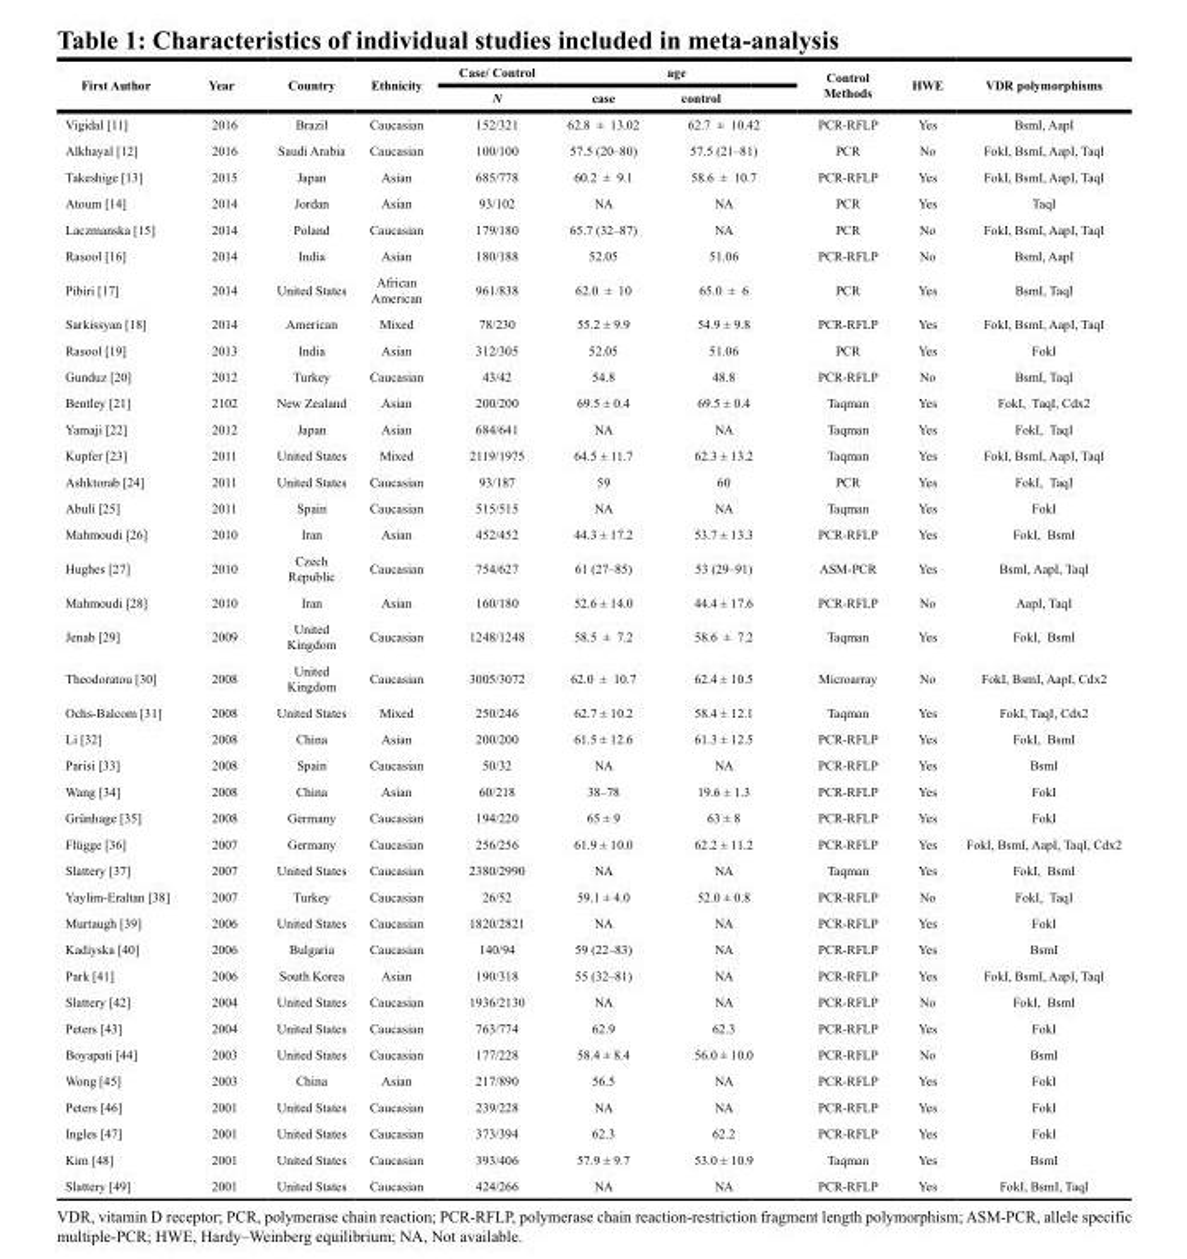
<table><thead><tr><td rowspan="2">First Author</td><td rowspan="2">Year</td><td rowspan="2">Country</td><td rowspan="2">Ethnicity</td><td rowspan="2">Case/ Control N</td><td colspan="2">age</td><td rowspan="2">Control Methods</td><td rowspan="2">HWE</td><td rowspan="2">VDR polymorphisms</td></tr><tr><td>case</td><td>control</td></tr></thead><tbody><tr><td>Vigidal [11]</td><td>2016</td><td>Brazil</td><td>Caucasian</td><td>152/321</td><td>62.8 ± 13.02</td><td>62.7 ± 10.42</td><td>PCR-RFLP</td><td>Yes</td><td>BsmI, AapI</td></tr><tr><td>Alkhayal [12]</td><td>2016</td><td>Saudi Arabia</td><td>Caucasian</td><td>100/100</td><td>57.5 (20–80)</td><td>57.5 (21–81)</td><td>PCR</td><td>No</td><td>FokI, BsmI, AapI, TaqI</td></tr><tr><td>Takeshige [13]</td><td>2015</td><td>Japan</td><td>Asian</td><td>685/778</td><td>60.2 ± 9.1</td><td>58.6 ± 10.7</td><td>PCR-RFLP</td><td>Yes</td><td>FokI, BsmI, AapI, TaqI</td></tr><tr><td>Atoum [14]</td><td>2014</td><td>Jordan</td><td>Asian</td><td>93/102</td><td>NA</td><td>NA</td><td>PCR</td><td>Yes</td><td>TaqI</td></tr><tr><td>Laczmanska [15]</td><td>2014</td><td>Poland</td><td>Caucasian</td><td>179/180</td><td>65.7 (32–87)</td><td>NA</td><td>PCR</td><td>No</td><td>FokI, BsmI, AapI, TaqI</td></tr><tr><td>Rasool [16]</td><td>2014</td><td>India</td><td>Asian</td><td>180/188</td><td>52.05</td><td>51.06</td><td>PCR-RFLP</td><td>No</td><td>BsmI, AapI</td></tr><tr><td>Pibiri [17]</td><td>2014</td><td>United States</td><td>African American</td><td>961/838</td><td>62.0 ± 10</td><td>65.0 ± 6</td><td>PCR</td><td>Yes</td><td>BsmI, TaqI</td></tr><tr><td>Sarkissyan [18]</td><td>2014</td><td>American</td><td>Mixed</td><td>78/230</td><td>55.2 ± 9.9</td><td>54.9 ± 9.8</td><td>PCR-RFLP</td><td>Yes</td><td>FokI, BsmI, AapI, TaqI</td></tr><tr><td>Rasool [19]</td><td>2013</td><td>India</td><td>Asian</td><td>312/305</td><td>52.05</td><td>51.06</td><td>PCR</td><td>Yes</td><td>FokI</td></tr><tr><td>Gunduz [20]</td><td>2012</td><td>Turkey</td><td>Caucasian</td><td>43/42</td><td>54.8</td><td>48.8</td><td>PCR-RFLP</td><td>No</td><td>BsmI, TaqI</td></tr><tr><td>Bentley [21]</td><td>2102</td><td>New Zealand</td><td>Asian</td><td>200/200</td><td>69.5 ± 0.4</td><td>69.5 ± 0.4</td><td>Taqman</td><td>Yes</td><td>FokI, TaqI, Cdx2</td></tr><tr><td>Yamaji [22]</td><td>2012</td><td>Japan</td><td>Asian</td><td>684/641</td><td>NA</td><td>NA</td><td>Taqman</td><td>Yes</td><td>FokI, TaqI</td></tr><tr><td>Kupfer [23]</td><td>2011</td><td>United States</td><td>Mixed</td><td>2119/1975</td><td>64.5 ± 11.7</td><td>62.3 ± 13.2</td><td>Taqman</td><td>Yes</td><td>FokI, BsmI, AapI, TaqI</td></tr><tr><td>Ashktorab [24]</td><td>2011</td><td>United States</td><td>Caucasian</td><td>93/187</td><td>59</td><td>60</td><td>PCR</td><td>Yes</td><td>FokI, TaqI</td></tr><tr><td>Abulí [25]</td><td>2011</td><td>Spain</td><td>Caucasian</td><td>515/515</td><td>NA</td><td>NA</td><td>Taqman</td><td>Yes</td><td>FokI</td></tr><tr><td>Mahmoudi [26]</td><td>2010</td><td>Iran</td><td>Asian</td><td>452/452</td><td>44.3 ± 17.2</td><td>53.7 ± 13.3</td><td>PCR-RFLP</td><td>Yes</td><td>FokI, BsmI</td></tr><tr><td>Hughes [27]</td><td>2010</td><td>Czech Republic</td><td>Caucasian</td><td>754/627</td><td>61 (27–85)</td><td>53 (29–91)</td><td>ASM-PCR</td><td>Yes</td><td>BsmI, AapI, TaqI</td></tr><tr><td>Mahmoudi [28]</td><td>2010</td><td>Iran</td><td>Asian</td><td>160/180</td><td>52.6 ± 14.0</td><td>44.4 ± 17.6</td><td>PCR-RFLP</td><td>No</td><td>AapI, TaqI</td></tr><tr><td>Jenab [29]</td><td>2009</td><td>United Kingdom</td><td>Caucasian</td><td>1248/1248</td><td>58.5 ± 7.2</td><td>58.6 ± 7.2</td><td>Taqman</td><td>Yes</td><td>FokI, BsmI</td></tr><tr><td>Theodoratou [30]</td><td>2008</td><td>United Kingdom</td><td>Caucasian</td><td>3005/3072</td><td>62.0 ± 10.7</td><td>62.4 ± 10.5</td><td>Microarray</td><td>No</td><td>FokI, BsmI, AapI, Cdx2</td></tr><tr><td>Ochs-Balcom [31]</td><td>2008</td><td>United States</td><td>Mixed</td><td>250/246</td><td>62.7 ± 10.2</td><td>58.4 ± 12.1</td><td>Taqman</td><td>Yes</td><td>FokI, TaqI, Cdx2</td></tr><tr><td>Li [32]</td><td>2008</td><td>China</td><td>Asian</td><td>200/200</td><td>61.5 ± 12.6</td><td>61.3 ± 12.5</td><td>PCR-RFLP</td><td>Yes</td><td>FokI, BsmI</td></tr><tr><td>Parisi [33]</td><td>2008</td><td>Spain</td><td>Caucasian</td><td>50/32</td><td>NA</td><td>NA</td><td>PCR-RFLP</td><td>Yes</td><td>BsmI</td></tr><tr><td>Wang [34]</td><td>2008</td><td>China</td><td>Asian</td><td>60/218</td><td>38–78</td><td>19.6 ± 1.3</td><td>PCR-RFLP</td><td>Yes</td><td>FokI</td></tr><tr><td>Grünhage [35]</td><td>2008</td><td>Germany</td><td>Caucasian</td><td>194/220</td><td>65 ± 9</td><td>63 ± 8</td><td>PCR-RFLP</td><td>Yes</td><td>FokI</td></tr><tr><td>Flügge [36]</td><td>2007</td><td>Germany</td><td>Caucasian</td><td>256/256</td><td>61.9 ± 10.0</td><td>62.2 ± 11.2</td><td>PCR-RFLP</td><td>Yes</td><td>FokI, BsmI, AapI, TaqI, Cdx2</td></tr><tr><td>Slattery [37]</td><td>2007</td><td>United States</td><td>Caucasian</td><td>2380/2990</td><td>NA</td><td>NA</td><td>Taqman</td><td>Yes</td><td>FokI, BsmI</td></tr><tr><td>Yaylim-Eraltan [38]</td><td>2007</td><td>Turkey</td><td>Caucasian</td><td>26/52</td><td>59.1 ± 4.0</td><td>52.0 ± 0.8</td><td>PCR-RFLP</td><td>No</td><td>FokI, TaqI</td></tr><tr><td>Murtaugh [39]</td><td>2006</td><td>United States</td><td>Caucasian</td><td>1820/2821</td><td>NA</td><td>NA</td><td>PCR-RFLP</td><td>Yes</td><td>FokI</td></tr><tr><td>Kadiyska [40]</td><td>2006</td><td>Bulgaria</td><td>Caucasian</td><td>140/94</td><td>59 (22–83)</td><td>NA</td><td>PCR-RFLP</td><td>Yes</td><td>BsmI</td></tr><tr><td>Park [41]</td><td>2006</td><td>South Korea</td><td>Asian</td><td>190/318</td><td>55 (32–81)</td><td>NA</td><td>PCR-RFLP</td><td>Yes</td><td>FokI, BsmI, AapI, TaqI</td></tr><tr><td>Slattery [42]</td><td>2004</td><td>United States</td><td>Caucasian</td><td>1936/2130</td><td>NA</td><td>NA</td><td>PCR-RFLP</td><td>No</td><td>FokI, BsmI</td></tr><tr><td>Peters [43]</td><td>2004</td><td>United States</td><td>Caucasian</td><td>763/774</td><td>62.9</td><td>62.3</td><td>PCR-RFLP</td><td>Yes</td><td>FokI</td></tr><tr><td>Boyapati [44]</td><td>2003</td><td>United States</td><td>Caucasian</td><td>177/228</td><td>58.4 ± 8.4</td><td>56.0 ± 10.0</td><td>PCR-RFLP</td><td>No</td><td>BsmI</td></tr><tr><td>Wong [45]</td><td>2003</td><td>China</td><td>Asian</td><td>217/890</td><td>56.5</td><td>NA</td><td>PCR-RFLP</td><td>Yes</td><td>FokI</td></tr><tr><td>Peters [46]</td><td>2001</td><td>United States</td><td>Caucasian</td><td>239/228</td><td>NA</td><td>NA</td><td>PCR-RFLP</td><td>Yes</td><td>FokI</td></tr><tr><td>Ingles [47]</td><td>2001</td><td>United States</td><td>Caucasian</td><td>373/394</td><td>62.3</td><td>62.2</td><td>PCR-RFLP</td><td>Yes</td><td>FokI</td></tr><tr><td>Kim [48]</td><td>2001</td><td>United States</td><td>Caucasian</td><td>393/406</td><td>57.9 ± 9.7</td><td>53.0 ± 10.9</td><td>Taqman</td><td>Yes</td><td>BsmI</td></tr><tr><td>Slattery [49]</td><td>2001</td><td>United States</td><td>Caucasian</td><td>424/266</td><td>NA</td><td>NA</td><td>PCR-RFLP</td><td>Yes</td><td>FokI, BsmI, TaqI</td></tr></tbody></table>